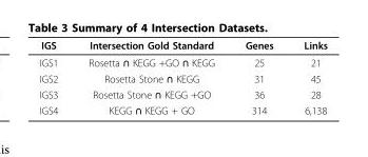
<table><thead><tr><td>IGS</td><td>Intersection Gold Standard</td><td>Genes</td><td>Links</td></tr></thead><tbody><tr><td>IGS1</td><td>Rosetta ∩ KEGG +GO ∩ KEGG</td><td>25</td><td>21</td></tr><tr><td>IGS2</td><td>Rosetta Stone ∩ KEGG</td><td>31</td><td>45</td></tr><tr><td>IGS3</td><td>Rosetta Stone ∩ KEGG +GO</td><td>36</td><td>28</td></tr><tr><td>IGS4</td><td>KEGG ∩ KEGG + GO</td><td>314</td><td>6,138</td></tr></tbody></table>